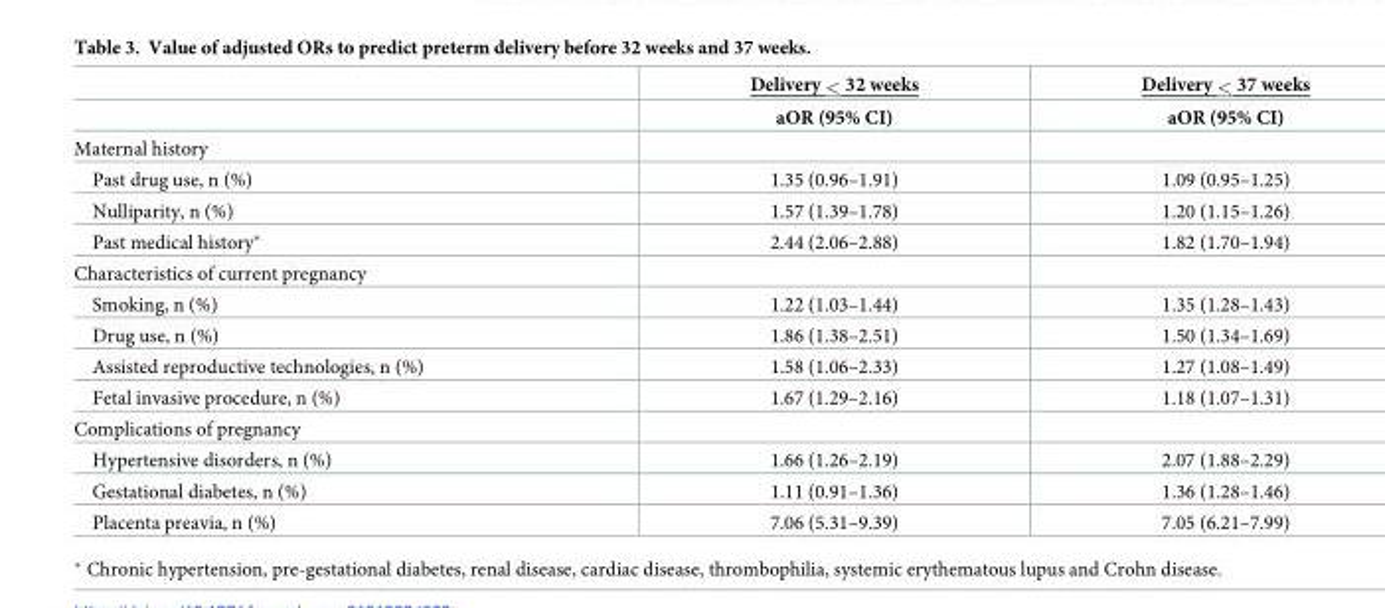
<table><thead><tr><td rowspan="2"></td><td rowspan="2">Delivery &lt; 32 weeks aOR (95% CI)</td><td rowspan="2">Delivery &lt; 37 weeks aOR (95% CI)</td></tr><tr></tr></thead><tbody><tr><td colspan="3">Maternal history</td></tr><tr><td>Past drug use, n (%)</td><td>1.35 (0.96–1.91)</td><td>1.09 (0.95–1.25)</td></tr><tr><td>Nulliparity, n (%)</td><td>1.57 (1.39–1.78)</td><td>1.20 (1.15–1.26)</td></tr><tr><td>Past medical history*</td><td>2.44 (2.06–2.88)</td><td>1.82 (1.70–1.94)</td></tr><tr><td colspan="3">Characteristics of current pregnancy</td></tr><tr><td>Smoking, n (%)</td><td>1.22 (1.03–1.44)</td><td>1.35 (1.28–1.43)</td></tr><tr><td>Drug use, n (%)</td><td>1.86 (1.38–2.51)</td><td>1.50 (1.34–1.69)</td></tr><tr><td>Assisted reproductive technologies, n (%)</td><td>1.58 (1.06–2.33)</td><td>1.27 (1.08–1.49)</td></tr><tr><td>Fetal invasive procedure, n (%)</td><td>1.67 (1.29–2.16)</td><td>1.18 (1.07–1.31)</td></tr><tr><td colspan="3">Complications of pregnancy</td></tr><tr><td>Hypertensive disorders, n (%)</td><td>1.66 (1.26–2.19)</td><td>2.07 (1.88–2.29)</td></tr><tr><td>Gestational diabetes, n (%)</td><td>1.11 (0.91–1.36)</td><td>1.36 (1.28–1.46)</td></tr><tr><td>Placenta preavia, n (%)</td><td>7.06 (5.31–9.39)</td><td>7.05 (6.21–7.99)</td></tr></tbody></table>